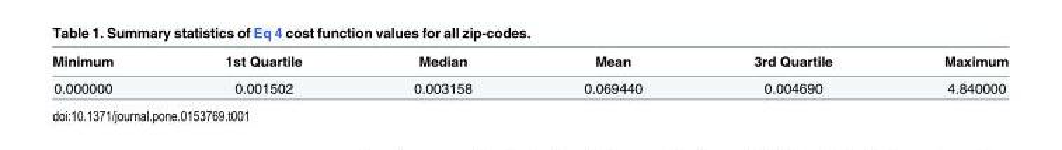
<table><thead><tr><td>Minimum</td><td>1st Quartile</td><td>Median</td><td>Mean</td><td>3rd Quartile</td><td>Maximum</td></tr></thead><tbody><tr><td>0.000000</td><td>0.001502</td><td>0.003158</td><td>0.069440</td><td>0.004690</td><td>4.840000</td></tr></tbody></table>